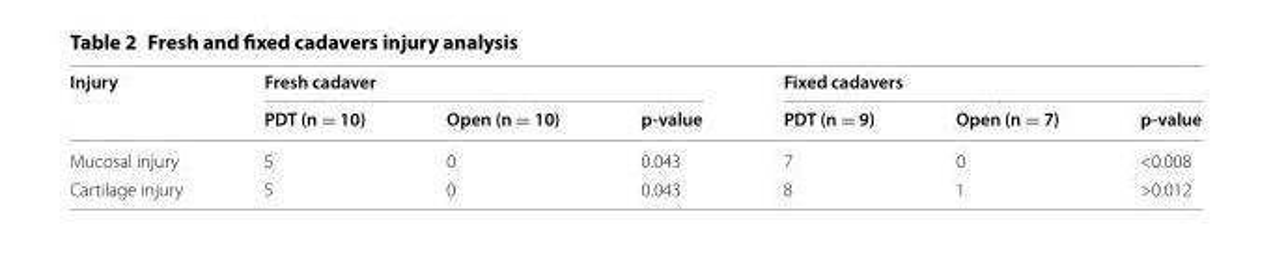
<table><thead><tr><td rowspan="2">Injury</td><td colspan="3">Fresh cadaver</td><td colspan="3">Fixed cadavers</td></tr><tr><td>PDT (n = 10)</td><td>Open (n = 10)</td><td>p-value</td><td>PDT (n = 9)</td><td>Open (n = 7)</td><td>p-value</td></tr></thead><tbody><tr><td>Mucosal injury</td><td>5</td><td>0</td><td>0.043</td><td>7</td><td>0</td><td>&lt;0.008</td></tr><tr><td>Cartilage injury</td><td>5</td><td>0</td><td>0.043</td><td>8</td><td>1</td><td>&gt;0.012</td></tr></tbody></table>